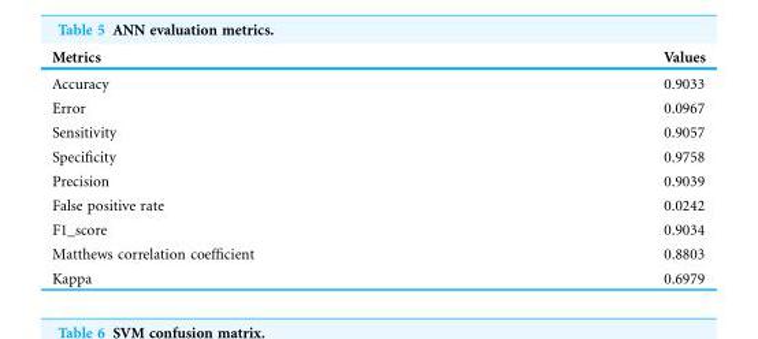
<table><thead><tr><td>Metrics</td><td>Values</td></tr></thead><tbody><tr><td>Accuracy</td><td>0.9033</td></tr><tr><td>Error</td><td>0.0967</td></tr><tr><td>Sensitivity</td><td>0.9057</td></tr><tr><td>Specificity</td><td>0.9758</td></tr><tr><td>Precision</td><td>0.9039</td></tr><tr><td>False positive rate</td><td>0.0242</td></tr><tr><td>F1_score</td><td>0.9034</td></tr><tr><td>Matthews correlation coefficient</td><td>0.8803</td></tr><tr><td>Kappa</td><td>0.6979</td></tr></tbody></table>